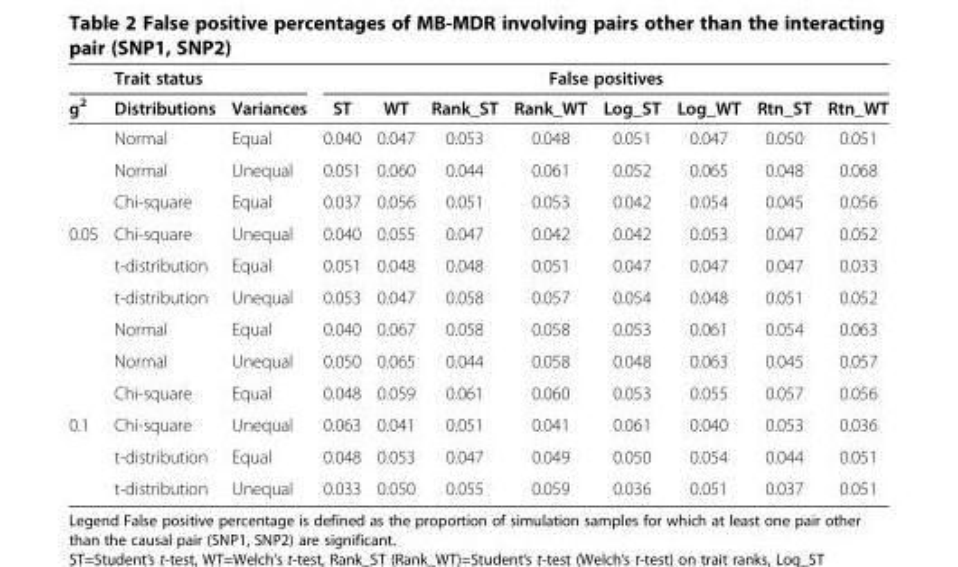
<table><thead><tr><td rowspan="2">g<sup>2</sup></td><td colspan="2">Trait status</td><td colspan="8">False positives</td></tr><tr><td>Distributions</td><td>Variances</td><td>ST</td><td>WT</td><td>Rank_ST</td><td>Rank_WT</td><td>Log_ST</td><td>Log_WT</td><td>Rtn_ST</td><td>Rtn_WT</td></tr></thead><tbody><tr><td></td><td>Normal</td><td>Equal</td><td>0.040</td><td>0.047</td><td>0.053</td><td>0.048</td><td>0.051</td><td>0.047</td><td>0.050</td><td>0.051</td></tr><tr><td></td><td>Normal</td><td>Unequal</td><td>0.051</td><td>0.060</td><td>0.044</td><td>0.061</td><td>0.052</td><td>0.065</td><td>0.048</td><td>0.068</td></tr><tr><td></td><td>Chi-square</td><td>Equal</td><td>0.037</td><td>0.056</td><td>0.051</td><td>0.053</td><td>0.042</td><td>0.054</td><td>0.045</td><td>0.056</td></tr><tr><td rowspan="6">0.05</td><td>Chi-square</td><td>Unequal</td><td>0.040</td><td>0.055</td><td>0.047</td><td>0.042</td><td>0.042</td><td>0.053</td><td>0.047</td><td>0.052</td></tr><tr><td>t-distribution</td><td>Equal</td><td>0.051</td><td>0.048</td><td>0.048</td><td>0.051</td><td>0.047</td><td>0.047</td><td>0.047</td><td>0.033</td></tr><tr><td>t-distribution</td><td>Unequal</td><td>0.053</td><td>0.047</td><td>0.058</td><td>0.057</td><td>0.054</td><td>0.048</td><td>0.051</td><td>0.052</td></tr><tr><td>Normal</td><td>Equal</td><td>0.040</td><td>0.067</td><td>0.058</td><td>0.058</td><td>0.053</td><td>0.061</td><td>0.054</td><td>0.063</td></tr><tr><td>Normal</td><td>Unequal</td><td>0.050</td><td>0.065</td><td>0.044</td><td>0.058</td><td>0.048</td><td>0.063</td><td>0.045</td><td>0.057</td></tr><tr><td>Chi-square</td><td>Equal</td><td>0.048</td><td>0.059</td><td>0.061</td><td>0.060</td><td>0.053</td><td>0.055</td><td>0.057</td><td>0.056</td></tr><tr><td rowspan="3">0.1</td><td>Chi-square</td><td>Unequal</td><td>0.063</td><td>0.041</td><td>0.051</td><td>0.041</td><td>0.061</td><td>0.040</td><td>0.053</td><td>0.036</td></tr><tr><td>t-distribution</td><td>Equal</td><td>0.048</td><td>0.053</td><td>0.047</td><td>0.049</td><td>0.050</td><td>0.054</td><td>0.044</td><td>0.051</td></tr><tr><td>t-distribution</td><td>Unequal</td><td>0.033</td><td>0.050</td><td>0.055</td><td>0.059</td><td>0.036</td><td>0.051</td><td>0.037</td><td>0.051</td></tr></tbody></table>